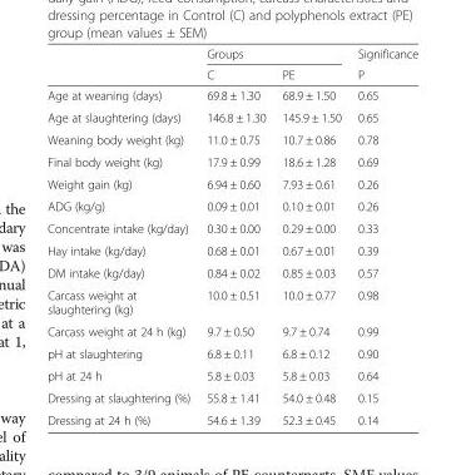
<table><thead><tr><td rowspan="2"></td><td colspan="2">Groups</td><td rowspan="2">Significance P</td></tr><tr><td>C</td><td>PE</td></tr></thead><tbody><tr><td>Age at weaning (days)</td><td>69.8 ± 1.30</td><td>68.9 ± 1.50</td><td>0.65</td></tr><tr><td>Age at slaughtering (days)</td><td>146.8 ± 1.30</td><td>145.9 ± 1.50</td><td>0.65</td></tr><tr><td>Weaning body weight (kg)</td><td>11.0 ± 0.75</td><td>10.7 ± 0.86</td><td>0.78</td></tr><tr><td>Final body weight (kg)</td><td>17.9 ± 0.99</td><td>18.6 ± 1.28</td><td>0.69</td></tr><tr><td>Weight gain (kg)</td><td>6.94 ± 0.60</td><td>7.93 ± 0.61</td><td>0.26</td></tr><tr><td>ADG (kg/g)</td><td>0.09 ± 0.01</td><td>0.10 ± 0.01</td><td>0.26</td></tr><tr><td>Concentrate intake (kg/day)</td><td>0.30 ± 0.00</td><td>0.29 ± 0.00</td><td>0.33</td></tr><tr><td>Hay intake (kg/day)</td><td>0.68 ± 0.01</td><td>0.67 ± 0.01</td><td>0.39</td></tr><tr><td>DM intake (kg/day)</td><td>0.84 ± 0.02</td><td>0.85 ± 0.03</td><td>0.57</td></tr><tr><td>Carcass weight at slaughtering (kg)</td><td>10.0 ± 0.51</td><td>10.0 ± 0.77</td><td>0.98</td></tr><tr><td>Carcass weight at 24 h (kg)</td><td>9.7 ± 0.50</td><td>9.7 ± 0.74</td><td>0.99</td></tr><tr><td>pH at slaughtering</td><td>6.8 ± 0.11</td><td>6.8 ± 0.12</td><td>0.90</td></tr><tr><td>pH at 24 h</td><td>5.8 ± 0.03</td><td>5.8 ± 0.03</td><td>0.64</td></tr><tr><td>Dressing at slaughtering (%)</td><td>55.8 ± 1.41</td><td>54.0 ± 0.48</td><td>0.15</td></tr><tr><td>Dressing at 24 h (%)</td><td>54.6 ± 1.39</td><td>52.3 ± 0.45</td><td>0.14</td></tr></tbody></table>